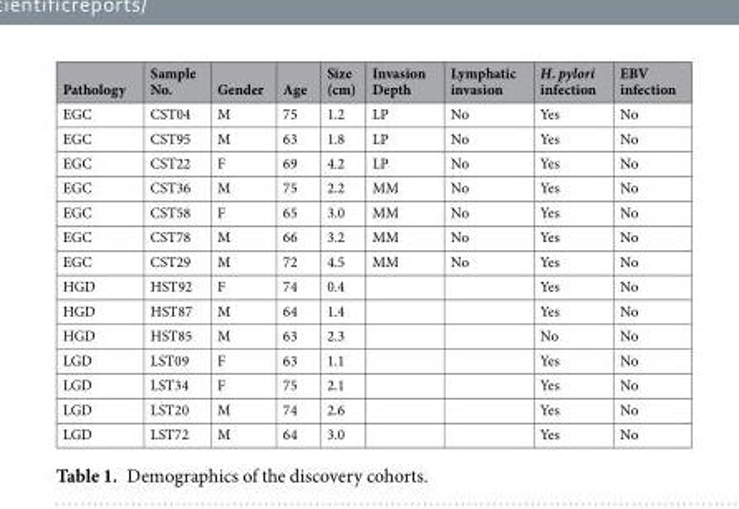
<table><thead><tr><td>Pathology</td><td>Sample No.</td><td>Gender</td><td>Age</td><td>Size (cm)</td><td>Invasion Depth</td><td>Lymphatic invasion</td><td>H. pylori infection</td><td>EBV infection</td></tr></thead><tbody><tr><td>EGC</td><td>CST04</td><td>M</td><td>75</td><td>1.2</td><td>LP</td><td>No</td><td>Yes</td><td>No</td></tr><tr><td>EGC</td><td>CST95</td><td>M</td><td>63</td><td>1.8</td><td>LP</td><td>No</td><td>Yes</td><td>No</td></tr><tr><td>EGC</td><td>CST22</td><td>F</td><td>69</td><td>4.2</td><td>LP</td><td>No</td><td>Yes</td><td>No</td></tr><tr><td>EGC</td><td>CST36</td><td>M</td><td>75</td><td>2.2</td><td>MM</td><td>No</td><td>Yes</td><td>No</td></tr><tr><td>EGC</td><td>CST58</td><td>F</td><td>65</td><td>3.0</td><td>MM</td><td>No</td><td>Yes</td><td>No</td></tr><tr><td>EGC</td><td>CST78</td><td>M</td><td>66</td><td>3.2</td><td>MM</td><td>No</td><td>Yes</td><td>No</td></tr><tr><td>EGC</td><td>CST29</td><td>M</td><td>72</td><td>4.5</td><td>MM</td><td>No</td><td>Yes</td><td>No</td></tr><tr><td>HGD</td><td>HST92</td><td>F</td><td>74</td><td>0.4</td><td></td><td></td><td>Yes</td><td>No</td></tr><tr><td>HGD</td><td>HST87</td><td>M</td><td>64</td><td>1.4</td><td></td><td></td><td>Yes</td><td>No</td></tr><tr><td>HGD</td><td>HST85</td><td>M</td><td>63</td><td>2.3</td><td></td><td></td><td>No</td><td>No</td></tr><tr><td>LGD</td><td>LST09</td><td>F</td><td>63</td><td>1.1</td><td></td><td></td><td>Yes</td><td>No</td></tr><tr><td>LGD</td><td>LST34</td><td>F</td><td>75</td><td>2.1</td><td></td><td></td><td>Yes</td><td>No</td></tr><tr><td>LGD</td><td>LST20</td><td>M</td><td>74</td><td>2.6</td><td></td><td></td><td>Yes</td><td>No</td></tr><tr><td>LGD</td><td>LST72</td><td>M</td><td>64</td><td>3.0</td><td></td><td></td><td>Yes</td><td>No</td></tr></tbody></table>